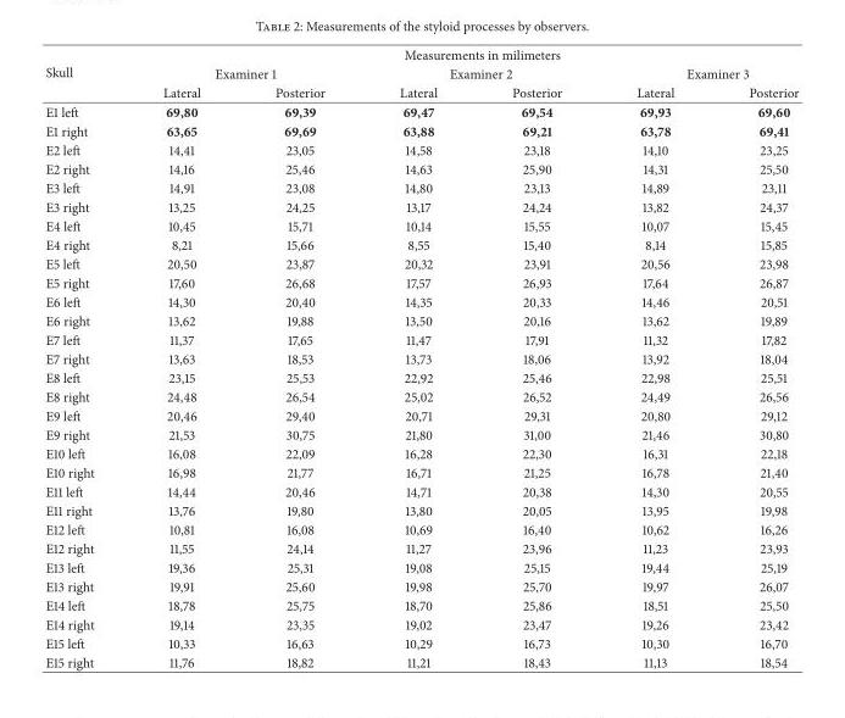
<table><thead><tr><td rowspan="3">Skull</td><td colspan="6">Measurements in milimeters</td></tr><tr><td colspan="2">Examiner 1</td><td colspan="2">Examiner 2</td><td colspan="2">Examiner 3</td></tr><tr><td>Lateral</td><td>Posterior</td><td>Lateral</td><td>Posterior</td><td>Lateral</td><td>Posterior</td></tr></thead><tbody><tr><td>E1 left</td><td>69,80</td><td>69,39</td><td>69,47</td><td>69,54</td><td>69,93</td><td>69,60</td></tr><tr><td>E1 right</td><td>63,65</td><td>69,69</td><td>63,88</td><td>69,21</td><td>63,78</td><td>69,41</td></tr><tr><td>E2 left</td><td>14,41</td><td>23,05</td><td>14,58</td><td>23,18</td><td>14,10</td><td>23,25</td></tr><tr><td>E2 right</td><td>14,16</td><td>25,46</td><td>14,63</td><td>25,90</td><td>14,31</td><td>25,50</td></tr><tr><td>E3 left</td><td>14,91</td><td>23,08</td><td>14,80</td><td>23,13</td><td>14,89</td><td>23,11</td></tr><tr><td>E3 right</td><td>13,25</td><td>24,25</td><td>13,17</td><td>24,24</td><td>13,82</td><td>24,37</td></tr><tr><td>E4 left</td><td>10,45</td><td>15,71</td><td>10,14</td><td>15,55</td><td>10,07</td><td>15,45</td></tr><tr><td>E4 right</td><td>8,21</td><td>15,66</td><td>8,55</td><td>15,40</td><td>8,14</td><td>15,85</td></tr><tr><td>E5 left</td><td>20,50</td><td>23,87</td><td>20,32</td><td>23,91</td><td>20,56</td><td>23,98</td></tr><tr><td>E5 right</td><td>17,60</td><td>26,68</td><td>17,57</td><td>26,93</td><td>17,64</td><td>26,87</td></tr><tr><td>E6 left</td><td>14,30</td><td>20,40</td><td>14,35</td><td>20,33</td><td>14,46</td><td>20,51</td></tr><tr><td>E6 right</td><td>13,62</td><td>19,88</td><td>13,50</td><td>20,16</td><td>13,62</td><td>19,89</td></tr><tr><td>E7 left</td><td>11,37</td><td>17,65</td><td>11,47</td><td>17,91</td><td>11,32</td><td>17,82</td></tr><tr><td>E7 right</td><td>13,63</td><td>18,53</td><td>13,73</td><td>18,06</td><td>13,92</td><td>18,04</td></tr><tr><td>E8 left</td><td>23,15</td><td>25,53</td><td>22,92</td><td>25,46</td><td>22,98</td><td>25,51</td></tr><tr><td>E8 right</td><td>24,48</td><td>26,54</td><td>25,02</td><td>26,52</td><td>24,49</td><td>26,56</td></tr><tr><td>E9 left</td><td>20,46</td><td>29,40</td><td>20,71</td><td>29,31</td><td>20,80</td><td>29,12</td></tr><tr><td>E9 right</td><td>21,53</td><td>30,75</td><td>21,80</td><td>31,00</td><td>21,46</td><td>30,80</td></tr><tr><td>E10 left</td><td>16,08</td><td>22,09</td><td>16,28</td><td>22,30</td><td>16,31</td><td>22,18</td></tr><tr><td>E10 right</td><td>16,98</td><td>21,77</td><td>16,71</td><td>21,25</td><td>16,78</td><td>21,40</td></tr><tr><td>E11 left</td><td>14,44</td><td>20,46</td><td>14,71</td><td>20,38</td><td>14,30</td><td>20,55</td></tr><tr><td>E11 right</td><td>13,76</td><td>19,80</td><td>13,80</td><td>20,05</td><td>13,95</td><td>19,98</td></tr><tr><td>E12 left</td><td>10,81</td><td>16,08</td><td>10,69</td><td>16,40</td><td>10,62</td><td>16,26</td></tr><tr><td>E12 right</td><td>11,55</td><td>24,14</td><td>11,27</td><td>23,96</td><td>11,23</td><td>23,93</td></tr><tr><td>E13 left</td><td>19,36</td><td>25,31</td><td>19,08</td><td>25,15</td><td>19,44</td><td>25,19</td></tr><tr><td>E13 right</td><td>19,91</td><td>25,60</td><td>19,98</td><td>25,70</td><td>19,97</td><td>26,07</td></tr><tr><td>E14 left</td><td>18,78</td><td>25,75</td><td>18,70</td><td>25,86</td><td>18,51</td><td>25,50</td></tr><tr><td>E14 right</td><td>19,14</td><td>23,35</td><td>19,02</td><td>23,47</td><td>19,26</td><td>23,42</td></tr><tr><td>E15 left</td><td>10,33</td><td>16,63</td><td>10,29</td><td>16,73</td><td>10,30</td><td>16,70</td></tr><tr><td>E15 right</td><td>11,76</td><td>18,82</td><td>11,21</td><td>18,43</td><td>11,13</td><td>18,54</td></tr></tbody></table>